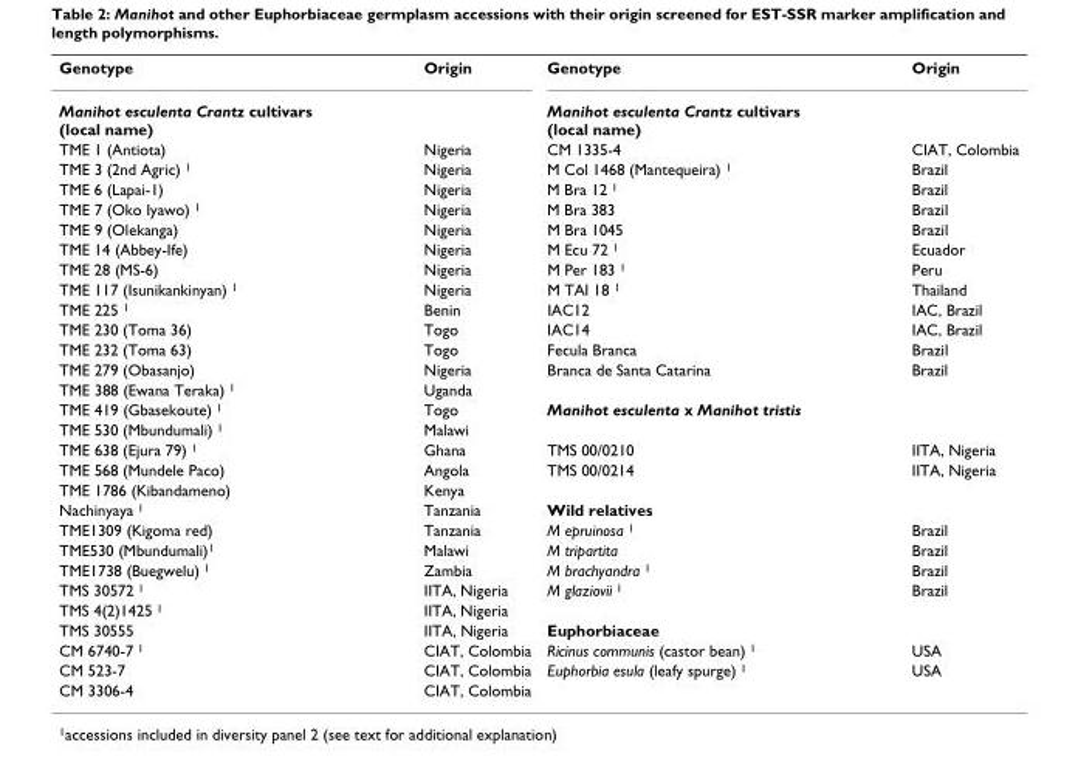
<table><tbody><tr><td>Genotype</td><td>Origin</td><td>Genotype</td><td>Origin</td></tr><tr><td>Manihot esculenta Crantz cultivars (local name)</td><td></td><td>Manihot esculenta Crantz cultivars (local name)</td><td></td></tr><tr><td>TME 1 (Antiota)</td><td>Nigeria</td><td>CM 1335-4</td><td>CIAT, Colombia</td></tr><tr><td>TME 3 (2nd Agric) <sup>1</sup></td><td>Nigeria</td><td>M Col 1468 (Mantequeira) <sup>1</sup></td><td>Brazil</td></tr><tr><td>TME 6 (Lapai-1)</td><td>Nigeria</td><td>M Bra 12 <sup>1</sup></td><td>Brazil</td></tr><tr><td>TME 7 (Oko Iyawo) <sup>1</sup></td><td>Nigeria</td><td>M Bra 383</td><td>Brazil</td></tr><tr><td>TME 9 (Olekanga)</td><td>Nigeria</td><td>M Bra 1045</td><td>Brazil</td></tr><tr><td>TME 14 (Abbey-Ife)</td><td>Nigeria</td><td>M Ecu 72 <sup>1</sup></td><td>Ecuador</td></tr><tr><td>TME 28 (MS-6)</td><td>Nigeria</td><td>M Per 183 <sup>1</sup></td><td>Peru</td></tr><tr><td>TME 117 (Isunikankinyan) <sup>1</sup></td><td>Nigeria</td><td>M TAI 18 <sup>1</sup></td><td>Thailand</td></tr><tr><td>TME 225 <sup>1</sup></td><td>Benin</td><td>IAC12</td><td>IAC, Brazil</td></tr><tr><td>TME 230 (Toma 36)</td><td>Togo</td><td>IAC14</td><td>IAC, Brazil</td></tr><tr><td>TME 232 (Toma 63)</td><td>Togo</td><td>Fecula Branca</td><td>Brazil</td></tr><tr><td>TME 279 (Obasanjo)</td><td>Nigeria</td><td>Branca de Santa Catarina</td><td>Brazil</td></tr><tr><td>TME 388 (Ewana Teraka) <sup>1</sup></td><td>Uganda</td><td></td><td></td></tr><tr><td>TME 419 (Gbasekoute) <sup>1</sup></td><td>Togo</td><td>Manihot esculenta x Manihot tristis</td><td></td></tr><tr><td>TME 530 (Mbundumali) <sup>1</sup></td><td>Malawi</td><td></td><td></td></tr><tr><td>TME 638 (Ejura 79) <sup>1</sup></td><td>Ghana</td><td>TMS 00/0210</td><td>IITA, Nigeria</td></tr><tr><td>TME 568 (Mundele Paco)</td><td>Angola</td><td>TMS 00/0214</td><td>IITA, Nigeria</td></tr><tr><td>TME 1786 (Kibandameno)</td><td>Kenya</td><td></td><td></td></tr><tr><td>Nachinyaya <sup>1</sup></td><td>Tanzania</td><td>Wild relatives</td><td></td></tr><tr><td>TME1309 (Kigoma red)</td><td>Tanzania</td><td>M epruinosa <sup>1</sup></td><td>Brazil</td></tr><tr><td>TME530 (Mbundumali)<sup>1</sup></td><td>Malawi</td><td>M tripartita</td><td>Brazil</td></tr><tr><td>TME1738 (Buegwelu) <sup>1</sup></td><td>Zambia</td><td>M brachyandra <sup>1</sup></td><td>Brazil</td></tr><tr><td>TMS 30572 <sup>1</sup></td><td>IITA, Nigeria</td><td>M glaziovii <sup>1</sup></td><td>Brazil</td></tr><tr><td>TMS 4(2)1425 <sup>1</sup></td><td>IITA, Nigeria</td><td></td><td></td></tr><tr><td>TMS 30555</td><td>IITA, Nigeria</td><td>Euphorbiaceae</td><td></td></tr><tr><td>CM 6740-7 <sup>1</sup></td><td>CIAT, Colombia</td><td>Ricinus communis (castor bean) <sup>1</sup></td><td>USA</td></tr><tr><td>CM 523-7</td><td>CIAT, Colombia</td><td>Euphorbia esula (leafy spurge) <sup>1</sup></td><td>USA</td></tr><tr><td>CM 3306-4</td><td>CIAT, Colombia</td><td></td><td></td></tr></tbody></table>